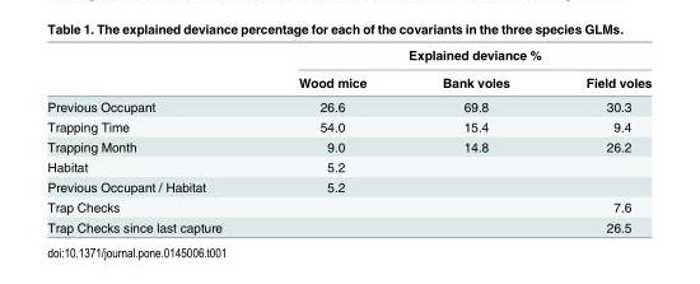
<table><thead><tr><td rowspan="2"></td><td colspan="3">Explained deviance %</td></tr><tr><td>Wood mice</td><td>Bank voles</td><td>Field voles</td></tr></thead><tbody><tr><td>Previous Occupant</td><td>26.6</td><td>69.8</td><td>30.3</td></tr><tr><td>Trapping Time</td><td>54.0</td><td>15.4</td><td>9.4</td></tr><tr><td>Trapping Month</td><td>9.0</td><td>14.8</td><td>26.2</td></tr><tr><td>Habitat</td><td>5.2</td><td></td><td></td></tr><tr><td>Previous Occupant / Habitat</td><td>5.2</td><td></td><td></td></tr><tr><td>Trap Checks</td><td></td><td></td><td>7.6</td></tr><tr><td>Trap Checks since last capture</td><td></td><td></td><td>26.5</td></tr></tbody></table>